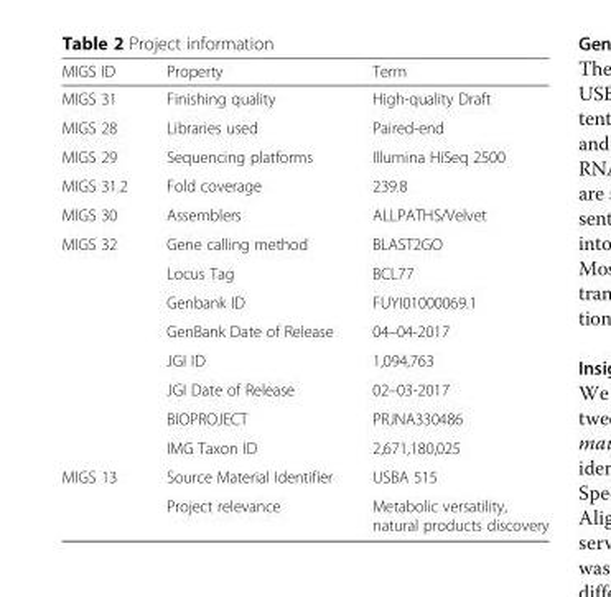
<table><thead><tr><td>MIGS ID</td><td>Property</td><td>Term</td></tr></thead><tbody><tr><td>MIGS 31</td><td>Finishing quality</td><td>High-quality Draft</td></tr><tr><td>MIGS 28</td><td>Libraries used</td><td>Paired-end</td></tr><tr><td>MIGS 29</td><td>Sequencing platforms</td><td>Illumina HiSeq 2500</td></tr><tr><td>MIGS 31.2</td><td>Fold coverage</td><td>239.8</td></tr><tr><td>MIGS 30</td><td>Assemblers</td><td>ALLPATHS/Velvet</td></tr><tr><td rowspan="8">MIGS 32</td><td>Gene calling method</td><td>BLAST2GO</td></tr><tr><td>Locus Tag</td><td>BCL77</td></tr><tr><td>Genbank ID</td><td>FUYI01000069.1</td></tr><tr><td>GenBank Date of Release</td><td>04–04-2017</td></tr><tr><td>JGI ID</td><td>1,094,763</td></tr><tr><td>JGI Date of Release</td><td>02–03-2017</td></tr><tr><td>BIOPROJECT</td><td>PRJNA330486</td></tr><tr><td>IMG Taxon ID</td><td>2,671,180,025</td></tr><tr><td rowspan="2">MIGS 13</td><td>Source Material Identifier</td><td>USBA 515</td></tr><tr><td>Project relevance</td><td>Metabolic versatility, natural products discovery</td></tr></tbody></table>